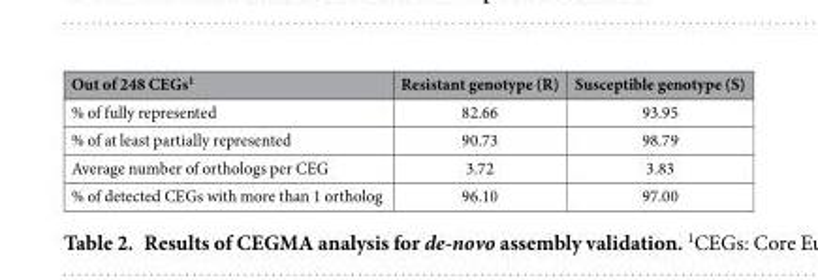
<table><thead><tr><td>Out of 248 CEGs<sup>1</sup></td><td>Resistant genotype (R)</td><td>Susceptible genotype (S)</td></tr></thead><tbody><tr><td>% of fully represented</td><td>82.66</td><td>93.95</td></tr><tr><td>% of at least partially represented</td><td>90.73</td><td>98.79</td></tr><tr><td>Average number of orthologs per CEG</td><td>3.72</td><td>3.83</td></tr><tr><td>% of detected CEGs with more than 1 ortholog</td><td>96.10</td><td>97.00</td></tr></tbody></table>